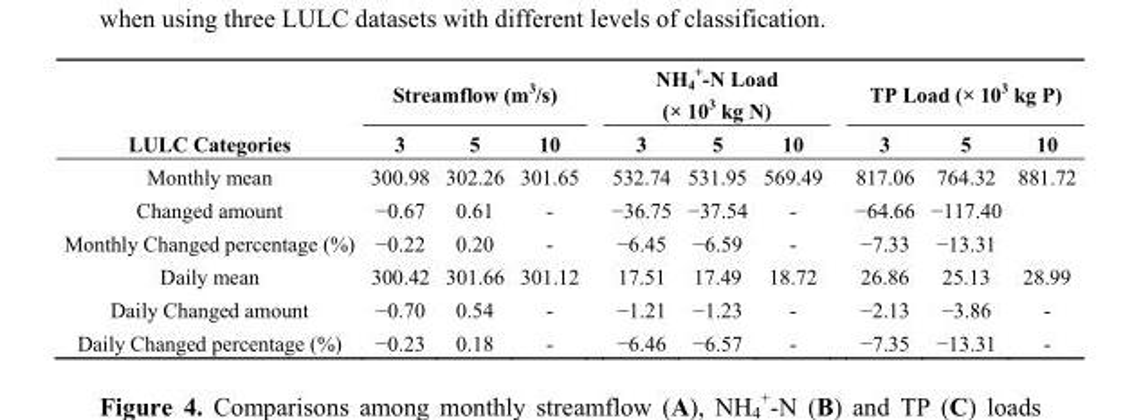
<table><thead><tr><td rowspan="2">LULC Categories</td><td colspan="3">Streamflow (m<sup>3</sup>/s)</td><td colspan="3">NH<sub>4</sub> <sup>+</sup>-N Load (× 10<sup>3</sup> kg N)</td><td colspan="3">TP Load (× 10<sup>3</sup> kg P)</td></tr><tr><td>3</td><td>5</td><td>10</td><td>3</td><td>5</td><td>10</td><td>3</td><td>5</td><td>10</td></tr></thead><tbody><tr><td>Monthly mean</td><td>300.98</td><td>302.26</td><td>301.65</td><td>532.74</td><td>531.95</td><td>569.49</td><td>817.06</td><td>764.32</td><td>881.72</td></tr><tr><td>Changed amount</td><td>−0.67</td><td>0.61</td><td>-</td><td>−36.75</td><td>−37.54</td><td>-</td><td>−64.66</td><td>−117.40</td><td></td></tr><tr><td>Monthly Changed percentage (%)</td><td>−0.22</td><td>0.20</td><td>-</td><td>−6.45</td><td>−6.59</td><td>-</td><td>−7.33</td><td>−13.31</td><td></td></tr><tr><td>Daily mean</td><td>300.42</td><td>301.66</td><td>301.12</td><td>17.51</td><td>17.49</td><td>18.72</td><td>26.86</td><td>25.13</td><td>28.99</td></tr><tr><td>Daily Changed amount</td><td>−0.70</td><td>0.54</td><td>-</td><td>−1.21</td><td>−1.23</td><td>-</td><td>−2.13</td><td>−3.86</td><td>-</td></tr><tr><td>Daily Changed percentage (%)</td><td>−0.23</td><td>0.18</td><td>-</td><td>−6.46</td><td>−6.57</td><td>-</td><td>−7.35</td><td>−13.31</td><td>-</td></tr></tbody></table>